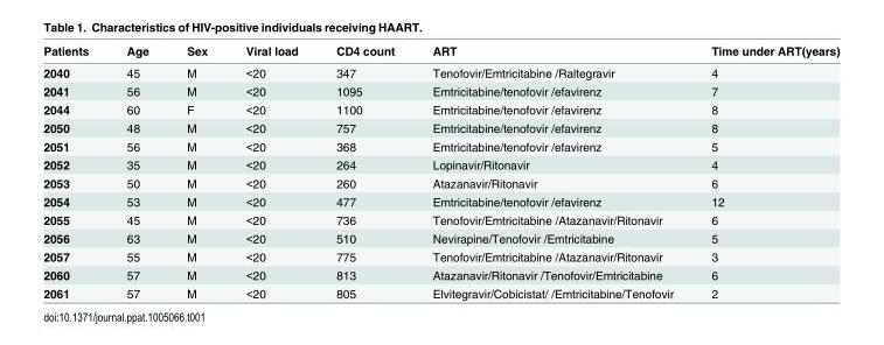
<table><thead><tr><td>Patients</td><td>Age</td><td>Sex</td><td>Viral load</td><td>CD4 count</td><td>ART</td><td>Time under ART(years)</td></tr></thead><tbody><tr><td>2040</td><td>45</td><td>M</td><td>&lt;20</td><td>347</td><td>Tenofovir/Emtricitabine /Raltegravir</td><td>4</td></tr><tr><td>2041</td><td>56</td><td>M</td><td>&lt;20</td><td>1095</td><td>Emtricitabine/tenofovir /efavirenz</td><td>7</td></tr><tr><td>2044</td><td>60</td><td>F</td><td>&lt;20</td><td>1100</td><td>Emtricitabine/tenofovir /efavirenz</td><td>8</td></tr><tr><td>2050</td><td>48</td><td>M</td><td>&lt;20</td><td>757</td><td>Emtricitabine/tenofovir /efavirenz</td><td>8</td></tr><tr><td>2051</td><td>56</td><td>M</td><td>&lt;20</td><td>368</td><td>Emtricitabine/tenofovir /efavirenz</td><td>5</td></tr><tr><td>2052</td><td>35</td><td>M</td><td>&lt;20</td><td>264</td><td>Lopinavir/Ritonavir</td><td>4</td></tr><tr><td>2053</td><td>50</td><td>M</td><td>&lt;20</td><td>260</td><td>Atazanavir/Ritonavir</td><td>6</td></tr><tr><td>2054</td><td>53</td><td>M</td><td>&lt;20</td><td>477</td><td>Emtricitabine/tenofovir /efavirenz</td><td>12</td></tr><tr><td>2055</td><td>45</td><td>M</td><td>&lt;20</td><td>736</td><td>Tenofovir/Emtricitabine /Atazanavir/Ritonavir</td><td>6</td></tr><tr><td>2056</td><td>63</td><td>M</td><td>&lt;20</td><td>510</td><td>Nevirapine/Tenofovir /Emtricitabine</td><td>5</td></tr><tr><td>2057</td><td>55</td><td>M</td><td>&lt;20</td><td>775</td><td>Tenofovir/Emtricitabine /Atazanavir/Ritonavir</td><td>3</td></tr><tr><td>2060</td><td>57</td><td>M</td><td>&lt;20</td><td>813</td><td>Atazanavir/Ritonavir /Tenofovir/Emtricitabine</td><td>6</td></tr><tr><td>2061</td><td>57</td><td>M</td><td>&lt;20</td><td>805</td><td>Elvitegravir/Cobicistat/ /Emtricitabine/Tenofovir</td><td>2</td></tr></tbody></table>